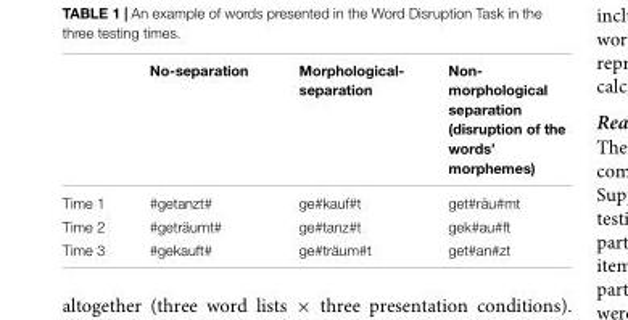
<table><thead><tr><td></td><td>No-separation</td><td>Morphological- separation</td><td>Non- morphological separation (disruption of the words’ morphemes)</td></tr></thead><tbody><tr><td>Time 1</td><td>#getanzt#</td><td>ge#kauf#t</td><td>get#räu#mt</td></tr><tr><td>Time 2</td><td>#geträumt#</td><td>ge#tanz#t</td><td>gek#au#ft</td></tr><tr><td>Time 3</td><td>#gekauft#</td><td>ge#träum#t</td><td>get#an#zt</td></tr></tbody></table>